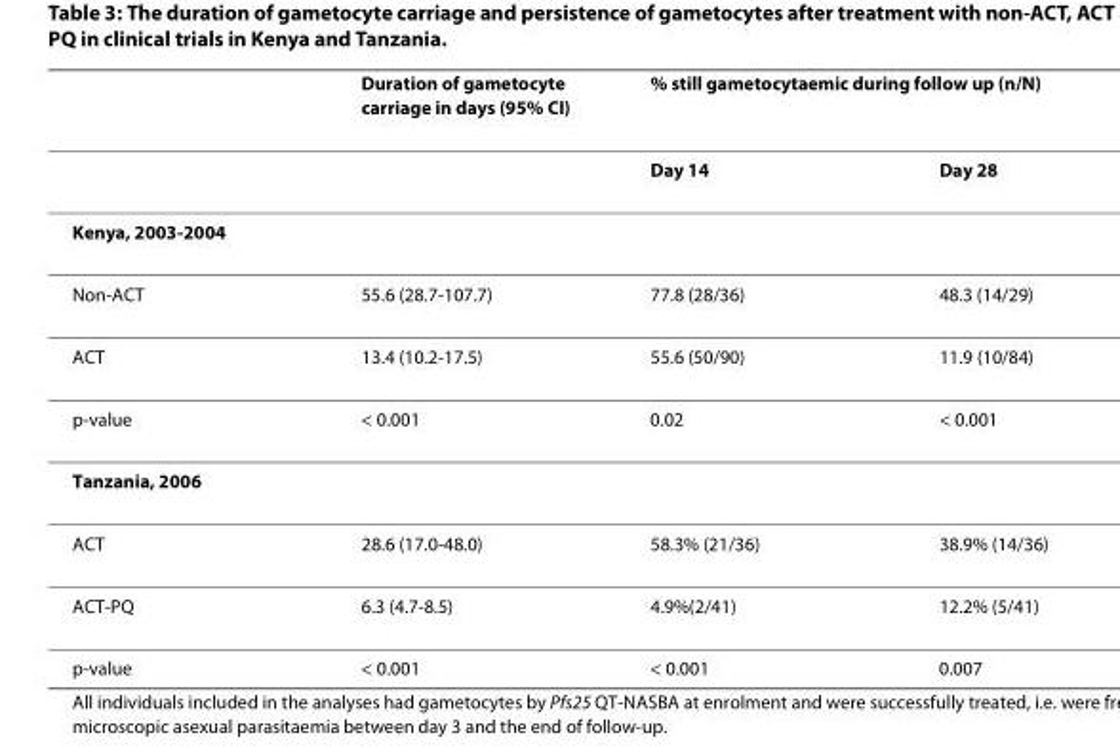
<table><thead><tr><td rowspan="2"></td><td rowspan="2">Duration of gametocyte carriage in days (95% CI)</td><td colspan="2">% still gametocytaemic during follow up (n/N)</td></tr><tr><td>Day 14</td><td>Day 28</td></tr></thead><tbody><tr><td colspan="4">Kenya, 2003-2004</td></tr><tr><td>Non-ACT</td><td>55.6 (28.7-107.7)</td><td>77.8 (28/36)</td><td>48.3 (14/29)</td></tr><tr><td>ACT</td><td>13.4 (10.2-17.5)</td><td>55.6 (50/90)</td><td>11.9 (10/84)</td></tr><tr><td>p-value</td><td>&lt; 0.001</td><td>0.02</td><td>&lt; 0.001</td></tr><tr><td colspan="4">Tanzania, 2006</td></tr><tr><td>ACT</td><td>28.6 (17.0-48.0)</td><td>58.3% (21/36)</td><td>38.9% (14/36)</td></tr><tr><td>ACT-PQ</td><td>6.3 (4.7-8.5)</td><td>4.9%(2/41)</td><td>12.2% (5/41)</td></tr><tr><td>p-value</td><td>&lt; 0.001</td><td>&lt; 0.001</td><td>0.007</td></tr></tbody></table>